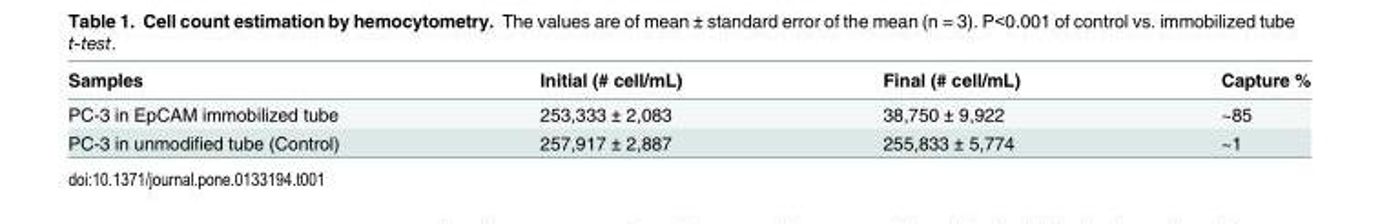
<table><thead><tr><td>Samples</td><td>Initial (# cell/mL)</td><td>Final (# cell/mL)</td><td>Capture %</td></tr></thead><tbody><tr><td>PC-3 in EpCAM immobilized tube</td><td>253,333 ± 2,083</td><td>38,750 ± 9,922</td><td>~85</td></tr><tr><td>PC-3 in unmodified tube (Control)</td><td>257,917 ± 2,887</td><td>255,833 ± 5,774</td><td>~1</td></tr></tbody></table>